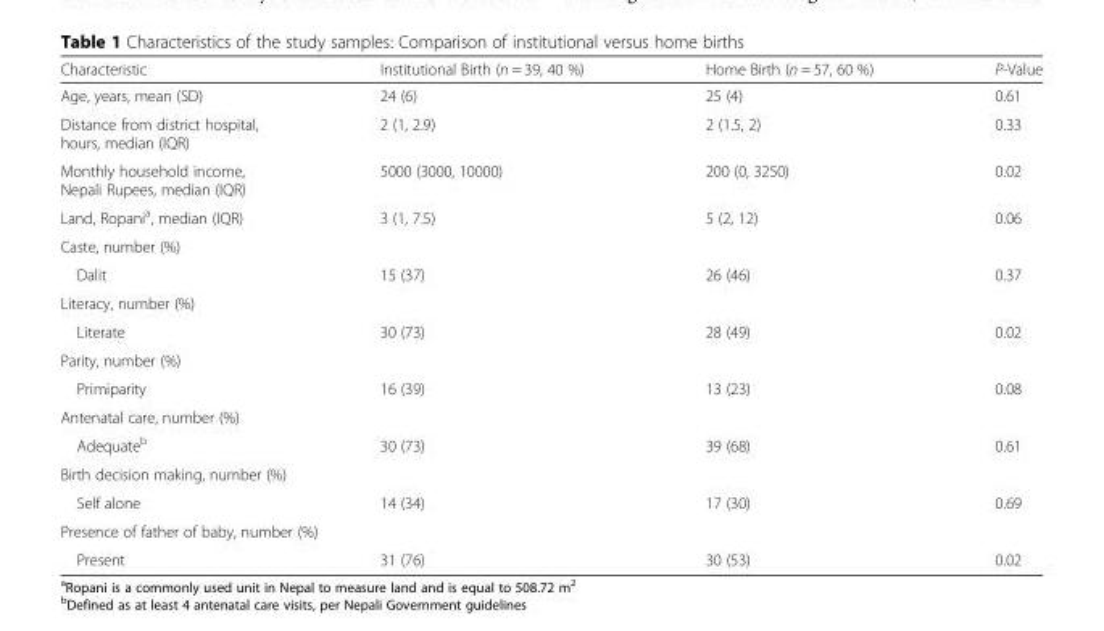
<table><thead><tr><td>Characteristic</td><td>Institutional Birth (n = 39, 40 %)</td><td>Home Birth (n = 57, 60 %)</td><td>P-Value</td></tr></thead><tbody><tr><td>Age, years, mean (SD)</td><td>24 (6)</td><td>25 (4)</td><td>0.61</td></tr><tr><td>Distance from district hospital, hours, median (IQR)</td><td>2 (1, 2.9)</td><td>2 (1.5, 2)</td><td>0.33</td></tr><tr><td>Monthly household income, Nepali Rupees, median (IQR)</td><td>5000 (3000, 10000)</td><td>200 (0, 3250)</td><td>0.02</td></tr><tr><td>Land, Ropani<sup>a</sup>, median (IQR)</td><td>3 (1, 7.5)</td><td>5 (2, 12)</td><td>0.06</td></tr><tr><td colspan="4">Caste, number (%)</td></tr><tr><td>Dalit</td><td>15 (37)</td><td>26 (46)</td><td>0.37</td></tr><tr><td colspan="4">Literacy, number (%)</td></tr><tr><td>Literate</td><td>30 (73)</td><td>28 (49)</td><td>0.02</td></tr><tr><td colspan="4">Parity, number (%)</td></tr><tr><td>Primiparity</td><td>16 (39)</td><td>13 (23)</td><td>0.08</td></tr><tr><td colspan="4">Antenatal care, number (%)</td></tr><tr><td>Adequate<sup>b</sup></td><td>30 (73)</td><td>39 (68)</td><td>0.61</td></tr><tr><td colspan="4">Birth decision making, number (%)</td></tr><tr><td>Self alone</td><td>14 (34)</td><td>17 (30)</td><td>0.69</td></tr><tr><td colspan="4">Presence of father of baby, number (%)</td></tr><tr><td>Present</td><td>31 (76)</td><td>30 (53)</td><td>0.02</td></tr></tbody></table>